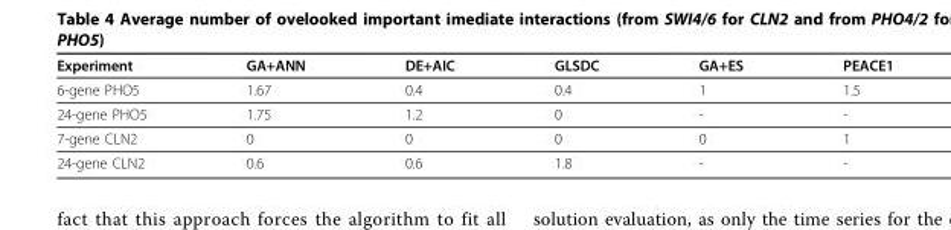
<table><thead><tr><td>Experiment</td><td>GA+ANN</td><td>DE+AIC</td><td>GLSDC</td><td>GA+ES</td><td>PEACE1</td></tr></thead><tbody><tr><td>6-gene PHO5</td><td>1.67</td><td>0.4</td><td>0.4</td><td>1</td><td>1.5</td></tr><tr><td>24-gene PHO5</td><td>1.75</td><td>1.2</td><td>0</td><td>-</td><td>-</td></tr><tr><td>7-gene CLN2</td><td>0</td><td>0</td><td>0</td><td>0</td><td>1</td></tr><tr><td>24-gene CLN2</td><td>0.6</td><td>0.6</td><td>1.8</td><td>-</td><td>-</td></tr></tbody></table>